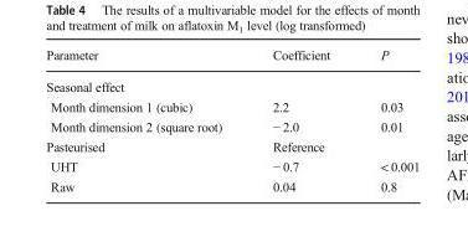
<table><thead><tr><td>Parameter</td><td>Coefficient</td><td>P</td></tr></thead><tbody><tr><td colspan="3">Seasonal effect</td></tr><tr><td>Month dimension 1 (cubic)</td><td>2.2</td><td>0.03</td></tr><tr><td>Month dimension 2 (square root)</td><td>− 2.0</td><td>0.01</td></tr><tr><td>Pasteurised</td><td>Reference</td><td></td></tr><tr><td>UHT</td><td>− 0.7</td><td>&lt; 0.001</td></tr><tr><td>Raw</td><td>0.04</td><td>0.8</td></tr></tbody></table>